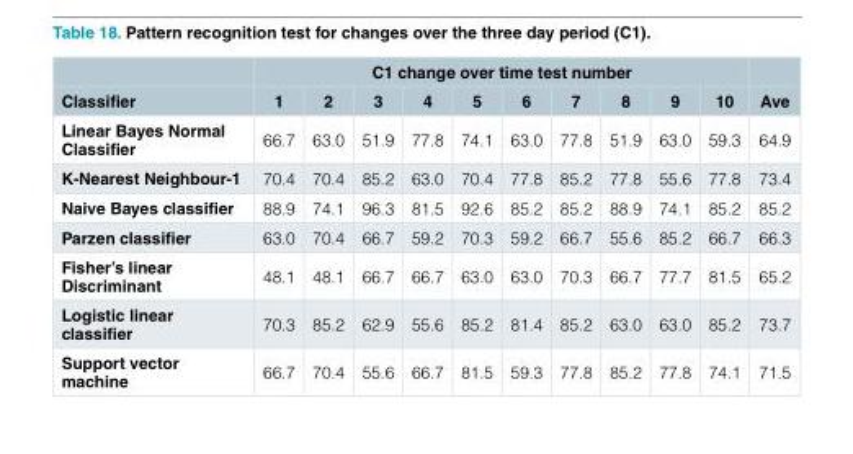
<table><thead><tr><td rowspan="2">Classifier</td><td colspan="10">C1 change over time test number</td><td rowspan="2">Ave</td></tr><tr><td>1</td><td>2</td><td>3</td><td>4</td><td>5</td><td>6</td><td>7</td><td>8</td><td>9</td><td>10</td></tr></thead><tbody><tr><td>Linear Bayes Normal Classifier</td><td>66.7</td><td>63.0</td><td>51.9</td><td>77.8</td><td>74.1</td><td>63.0</td><td>77.8</td><td>51.9</td><td>63.0</td><td>59.3</td><td>64.9</td></tr><tr><td>K-Nearest Neighbour-1</td><td>70.4</td><td>70.4</td><td>85.2</td><td>63.0</td><td>70.4</td><td>77.8</td><td>85.2</td><td>77.8</td><td>55.6</td><td>77.8</td><td>73.4</td></tr><tr><td>Naive Bayes classifier</td><td>88.9</td><td>74.1</td><td>96.3</td><td>81.5</td><td>92.6</td><td>85.2</td><td>85.2</td><td>88.9</td><td>74.1</td><td>85.2</td><td>85.2</td></tr><tr><td>Parzen classifier</td><td>63.0</td><td>70.4</td><td>66.7</td><td>59.2</td><td>70.3</td><td>59.2</td><td>66.7</td><td>55.6</td><td>85.2</td><td>66.7</td><td>66.3</td></tr><tr><td>Fisher’s linear Discriminant</td><td>48.1</td><td>48.1</td><td>66.7</td><td>66.7</td><td>63.0</td><td>63.0</td><td>70.3</td><td>66.7</td><td>77.7</td><td>81.5</td><td>65.2</td></tr><tr><td>Logistic linear classifier</td><td>70.3</td><td>85.2</td><td>62.9</td><td>55.6</td><td>85.2</td><td>81.4</td><td>85.2</td><td>63.0</td><td>63.0</td><td>85.2</td><td>73.7</td></tr><tr><td>Support vector machine</td><td>66.7</td><td>70.4</td><td>55.6</td><td>66.7</td><td>81.5</td><td>59.3</td><td>77.8</td><td>85.2</td><td>77.8</td><td>74.1</td><td>71.5</td></tr></tbody></table>